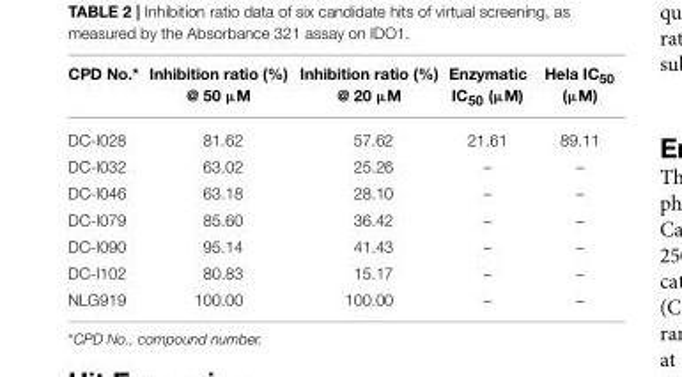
<table><thead><tr><td>CPD No.*</td><td>Inhibition ratio (%) @ 50 µM</td><td>Inhibition ratio (%) @ 20 µM</td><td>Enzymatic IC<sub>50</sub> (µM)</td><td>Hela IC<sub>50</sub> (µM)</td></tr></thead><tbody><tr><td>DC-I028</td><td>81.62</td><td>57.62</td><td>21.61</td><td>89.11</td></tr><tr><td>DC-I032</td><td>63.02</td><td>25.26</td><td>–</td><td>–</td></tr><tr><td>DC-I046</td><td>63.18</td><td>28.10</td><td>–</td><td>–</td></tr><tr><td>DC-I079</td><td>85.60</td><td>36.42</td><td>–</td><td>–</td></tr><tr><td>DC-I090</td><td>95.14</td><td>41.43</td><td>–</td><td>–</td></tr><tr><td>DC-I102</td><td>80.83</td><td>15.17</td><td>–</td><td>–</td></tr><tr><td>NLG919</td><td>100.00</td><td>100.00</td><td>–</td><td>–</td></tr></tbody></table>